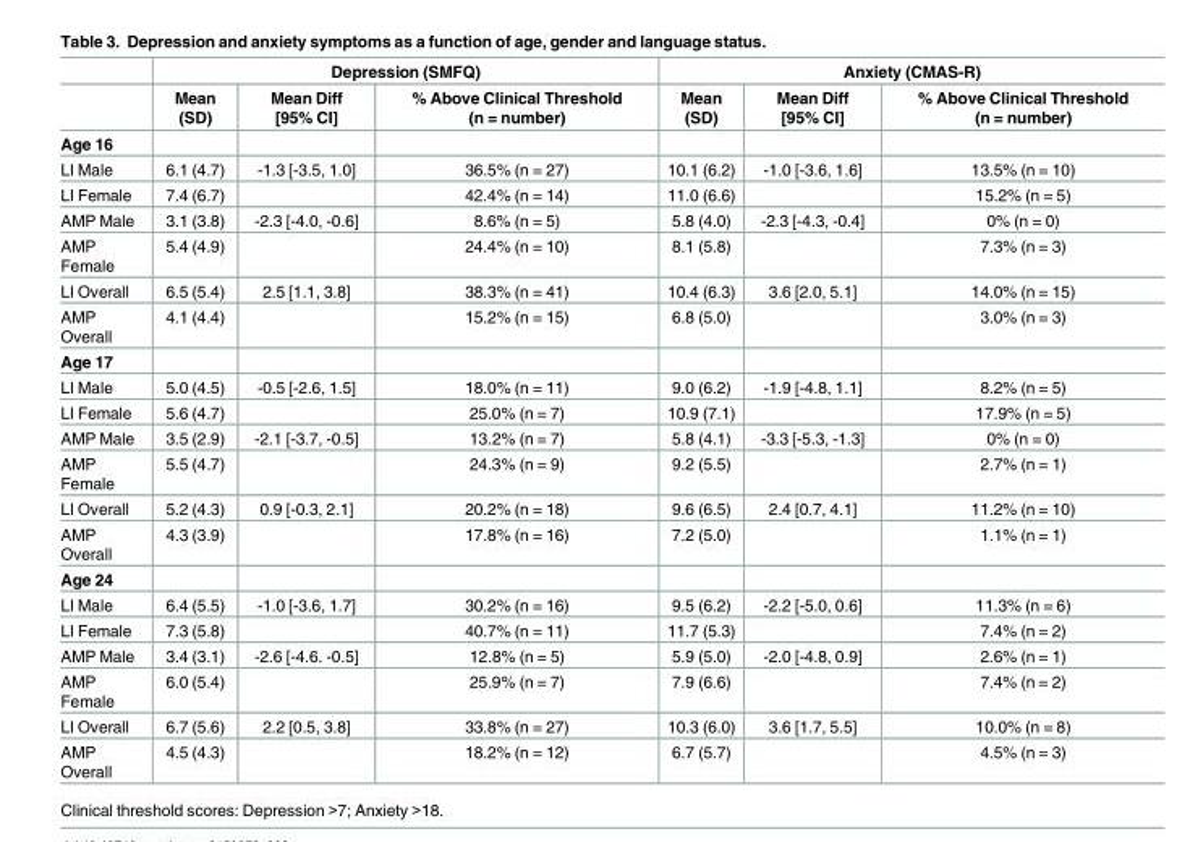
<table><thead><tr><td rowspan="2"></td><td colspan="3">Depression (SMFQ)</td><td colspan="3">Anxiety (CMAS-R)</td></tr><tr><td>Mean (SD)</td><td>Mean Diff [95% CI]</td><td>% Above Clinical Threshold (n = number)</td><td>Mean (SD)</td><td>Mean Diff [95% CI]</td><td>% Above Clinical Threshold (n = number)</td></tr></thead><tbody><tr><td colspan="7">Age 16</td></tr><tr><td>LI Male</td><td>6.1 (4.7)</td><td>-1.3 [-3.5, 1.0]</td><td>36.5% (n = 27)</td><td>10.1 (6.2)</td><td>-1.0 [-3.6, 1.6]</td><td>13.5% (n = 10)</td></tr><tr><td>LI Female</td><td>7.4 (6.7)</td><td></td><td>42.4% (n = 14)</td><td>11.0 (6.6)</td><td></td><td>15.2% (n = 5)</td></tr><tr><td>AMP Male</td><td>3.1 (3.8)</td><td>-2.3 [-4.0, -0.6]</td><td>8.6% (n = 5)</td><td>5.8 (4.0)</td><td>-2.3 [-4.3, -0.4]</td><td>0% (n = 0)</td></tr><tr><td>AMP Female</td><td>5.4 (4.9)</td><td></td><td>24.4% (n = 10)</td><td>8.1 (5.8)</td><td></td><td>7.3% (n = 3)</td></tr><tr><td>LI Overall</td><td>6.5 (5.4)</td><td>2.5 [1.1, 3.8]</td><td>38.3% (n = 41)</td><td>10.4 (6.3)</td><td>3.6 [2.0, 5.1]</td><td>14.0% (n = 15)</td></tr><tr><td>AMP Overall</td><td>4.1 (4.4)</td><td></td><td>15.2% (n = 15)</td><td>6.8 (5.0)</td><td></td><td>3.0% (n = 3)</td></tr><tr><td colspan="7">Age 17</td></tr><tr><td>LI Male</td><td>5.0 (4.5)</td><td>-0.5 [-2.6, 1.5]</td><td>18.0% (n = 11)</td><td>9.0 (6.2)</td><td>-1.9 [-4.8, 1.1]</td><td>8.2% (n = 5)</td></tr><tr><td>LI Female</td><td>5.6 (4.7)</td><td></td><td>25.0% (n = 7)</td><td>10.9 (7.1)</td><td></td><td>17.9% (n = 5)</td></tr><tr><td>AMP Male</td><td>3.5 (2.9)</td><td>-2.1 [-3.7, -0.5]</td><td>13.2% (n = 7)</td><td>5.8 (4.1)</td><td>-3.3 [-5.3, -1.3]</td><td>0% (n = 0)</td></tr><tr><td>AMP Female</td><td>5.5 (4.7)</td><td></td><td>24.3% (n = 9)</td><td>9.2 (5.5)</td><td></td><td>2.7% (n = 1)</td></tr><tr><td>LI Overall</td><td>5.2 (4.3)</td><td>0.9 [-0.3, 2.1]</td><td>20.2% (n = 18)</td><td>9.6 (6.5)</td><td>2.4 [0.7, 4.1]</td><td>11.2% (n = 10)</td></tr><tr><td>AMP Overall</td><td>4.3 (3.9)</td><td></td><td>17.8% (n = 16)</td><td>7.2 (5.0)</td><td></td><td>1.1% (n = 1)</td></tr><tr><td colspan="7">Age 24</td></tr><tr><td>LI Male</td><td>6.4 (5.5)</td><td>-1.0 [-3.6, 1.7]</td><td>30.2% (n = 16)</td><td>9.5 (6.2)</td><td>-2.2 [-5.0, 0.6]</td><td>11.3% (n = 6)</td></tr><tr><td>LI Female</td><td>7.3 (5.8)</td><td></td><td>40.7% (n = 11)</td><td>11.7 (5.3)</td><td></td><td>7.4% (n = 2)</td></tr><tr><td>AMP Male</td><td>3.4 (3.1)</td><td>-2.6 [-4.6. -0.5]</td><td>12.8% (n = 5)</td><td>5.9 (5.0)</td><td>-2.0 [-4.8, 0.9]</td><td>2.6% (n = 1)</td></tr><tr><td>AMP Female</td><td>6.0 (5.4)</td><td></td><td>25.9% (n = 7)</td><td>7.9 (6.6)</td><td></td><td>7.4% (n = 2)</td></tr><tr><td>LI Overall</td><td>6.7 (5.6)</td><td>2.2 [0.5, 3.8]</td><td>33.8% (n = 27)</td><td>10.3 (6.0)</td><td>3.6 [1.7, 5.5]</td><td>10.0% (n = 8)</td></tr><tr><td>AMP Overall</td><td>4.5 (4.3)</td><td></td><td>18.2% (n = 12)</td><td>6.7 (5.7)</td><td></td><td>4.5% (n = 3)</td></tr></tbody></table>